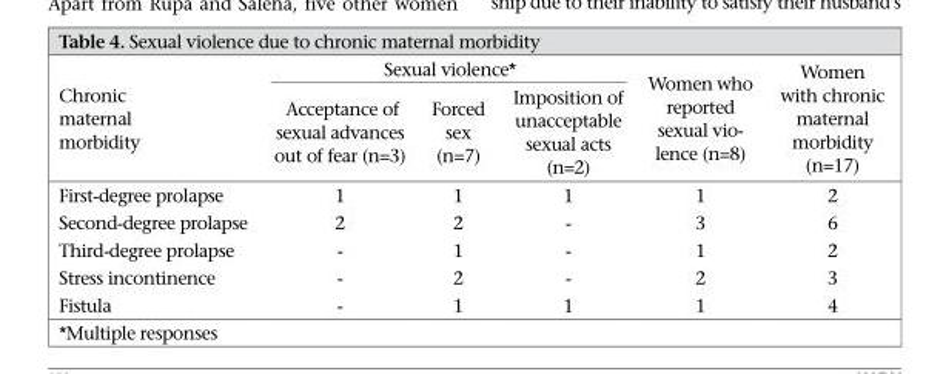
<table><thead><tr><td rowspan="2">Chronic maternal morbidity</td><td colspan="3">Sexual violence*</td><td rowspan="2">Women who reported sexual vio- lence (n=8)</td><td rowspan="2">Women with chronic maternal morbidity (n=17)</td></tr><tr><td>Acceptance of sexual advances out of fear (n=3)</td><td>Forced sex (n=7)</td><td>Imposition of unacceptable sexual acts (n=2)</td></tr></thead><tbody><tr><td>First-degree prolapse</td><td>1</td><td>1</td><td>1</td><td>1</td><td>2</td></tr><tr><td>Second-degree prolapse</td><td>2</td><td>2</td><td>-</td><td>3</td><td>6</td></tr><tr><td>Third-degree prolapse</td><td>-</td><td>1</td><td>-</td><td>1</td><td>2</td></tr><tr><td>Stress incontinence</td><td>-</td><td>2</td><td>-</td><td>2</td><td>3</td></tr><tr><td>Fistula</td><td>-</td><td>1</td><td>1</td><td>1</td><td>4</td></tr></tbody></table>